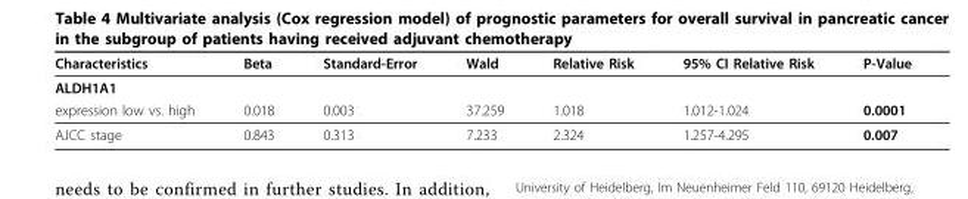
<table><thead><tr><td>Characteristics</td><td>Beta</td><td>Standard-Error</td><td>Wald</td><td>Relative Risk</td><td>95% CI Relative Risk</td><td>P-Value</td></tr></thead><tbody><tr><td colspan="7">ALDH1A1</td></tr><tr><td>expression low vs. high</td><td>0.018</td><td>0.003</td><td>37.259</td><td>1.018</td><td>1.012-1.024</td><td>0.0001</td></tr><tr><td>AJCC stage</td><td>0.843</td><td>0.313</td><td>7.233</td><td>2.324</td><td>1.257-4.295</td><td>0.007</td></tr></tbody></table>